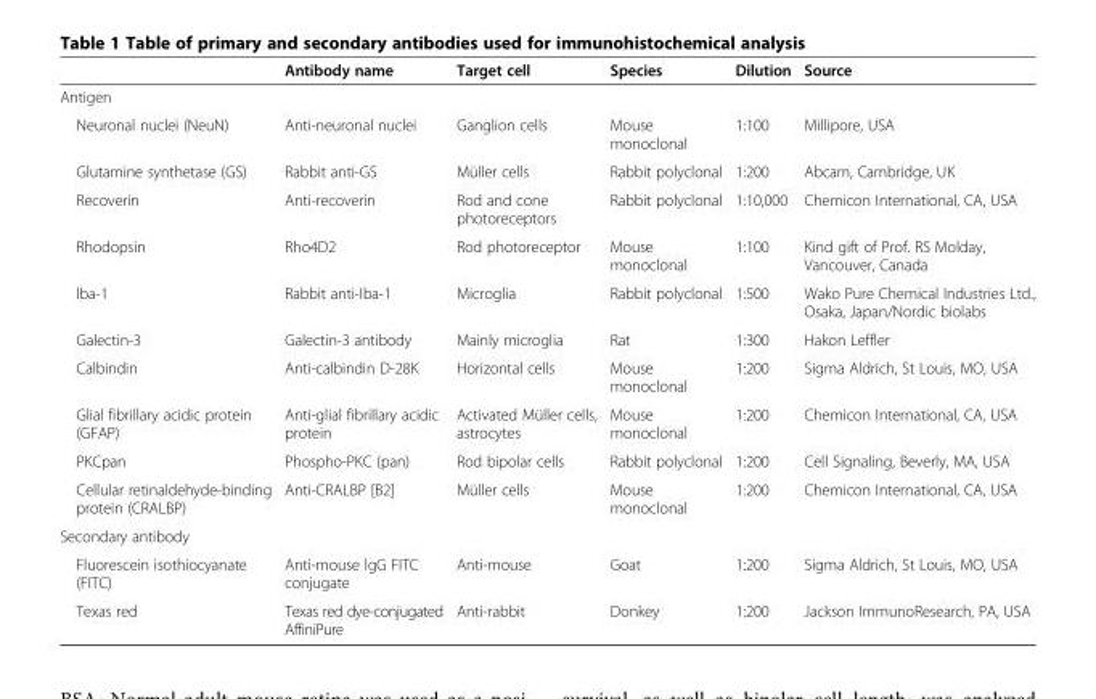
<table><thead><tr><td></td><td>Antibody name</td><td>Target cell</td><td>Species</td><td>Dilution</td><td>Source</td></tr></thead><tbody><tr><td colspan="6">Antigen</td></tr><tr><td>Neuronal nuclei (NeuN)</td><td>Anti-neuronal nuclei</td><td>Ganglion cells</td><td>Mouse monoclonal</td><td>1:100</td><td>Millipore, USA</td></tr><tr><td>Glutamine synthetase (GS)</td><td>Rabbit anti-GS</td><td>Müller cells</td><td>Rabbit polyclonal</td><td>1:200</td><td>Abcam, Cambridge, UK</td></tr><tr><td>Recoverin</td><td>Anti-recoverin</td><td>Rod and cone photoreceptors</td><td>Rabbit polyclonal</td><td>1:10,000</td><td>Chemicon International, CA, USA</td></tr><tr><td>Rhodopsin</td><td>Rho4D2</td><td>Rod photoreceptor</td><td>Mouse monoclonal</td><td>1:100</td><td>Kind gift of Prof. RS Molday, Vancouver, Canada</td></tr><tr><td>Iba-1</td><td>Rabbit anti-Iba-1</td><td>Microglia</td><td>Rabbit polyclonal</td><td>1:500</td><td>Wako Pure Chemical Industries Ltd., Osaka, Japan/Nordic biolabs</td></tr><tr><td>Galectin-3</td><td>Galectin-3 antibody</td><td>Mainly microglia</td><td>Rat</td><td>1:300</td><td>Hakon Leffler</td></tr><tr><td>Calbindin</td><td>Anti-calbindin D-28K</td><td>Horizontal cells</td><td>Mouse monoclonal</td><td>1:200</td><td>Sigma Aldrich, St Louis, MO, USA</td></tr><tr><td>Glial fibrillary acidic protein (GFAP)</td><td>Anti-glial fibrillary acidic protein</td><td>Activated Müller cells, astrocytes</td><td>Mouse monoclonal</td><td>1:200</td><td>Chemicon International, CA, USA</td></tr><tr><td>PKCpan</td><td>Phospho-PKC (pan)</td><td>Rod bipolar cells</td><td>Rabbit polyclonal</td><td>1:200</td><td>Cell Signaling, Beverly, MA, USA</td></tr><tr><td>Cellular retinaldehyde-binding protein (CRALBP)</td><td>Anti-CRALBP [B2]</td><td>Müller cells</td><td>Mouse monoclonal</td><td>1:200</td><td>Chemicon International, CA, USA</td></tr><tr><td colspan="6">Secondary antibody</td></tr><tr><td>Fluorescein isothiocyanate (FITC)</td><td>Anti-mouse IgG FITC conjugate</td><td>Anti-mouse</td><td>Goat</td><td>1:200</td><td>Sigma Aldrich, St Louis, MO, USA</td></tr><tr><td>Texas red</td><td>Texas red dye-conjugated AffiniPure</td><td>Anti-rabbit</td><td>Donkey</td><td>1:200</td><td>Jackson ImmunoResearch, PA, USA</td></tr></tbody></table>